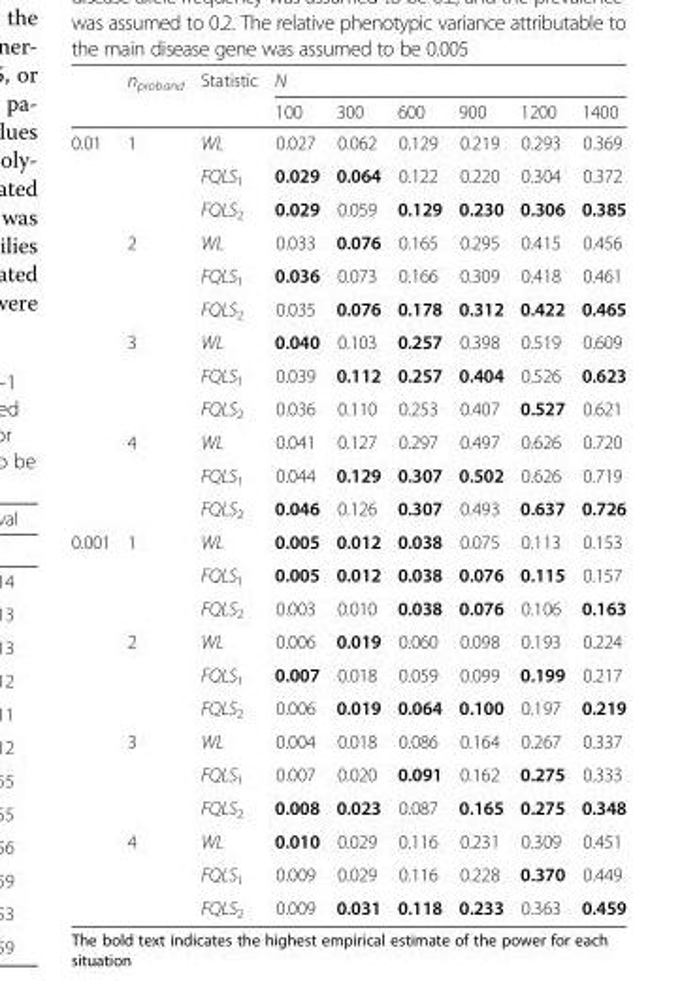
<table><thead><tr><td rowspan="2"></td><td rowspan="2">n<sub>proband</sub></td><td rowspan="2">Statistic</td><td colspan="6">N</td></tr><tr><td>100</td><td>300</td><td>600</td><td>900</td><td>1200</td><td>1400</td></tr></thead><tbody><tr><td rowspan="12">0.01</td><td rowspan="3">1</td><td>WL</td><td>0.027</td><td>0.062</td><td>0.129</td><td>0.219</td><td>0.293</td><td>0.369</td></tr><tr><td>FQLS<sub>1</sub></td><td>0.029</td><td>0.064</td><td>0.122</td><td>0.220</td><td>0.304</td><td>0.372</td></tr><tr><td>FQLS<sub>2</sub></td><td>0.029</td><td>0.059</td><td>0.129</td><td>0.230</td><td>0.306</td><td>0.385</td></tr><tr><td rowspan="3">2</td><td>WL</td><td>0.033</td><td>0.076</td><td>0.165</td><td>0.295</td><td>0.415</td><td>0.456</td></tr><tr><td>FQLS<sub>1</sub></td><td>0.036</td><td>0.073</td><td>0.166</td><td>0.309</td><td>0.418</td><td>0.461</td></tr><tr><td>FQLS<sub>2</sub></td><td>0.035</td><td>0.076</td><td>0.178</td><td>0.312</td><td>0.422</td><td>0.465</td></tr><tr><td rowspan="3">3</td><td>WL</td><td>0.040</td><td>0.103</td><td>0.257</td><td>0.398</td><td>0.519</td><td>0.609</td></tr><tr><td>FQLS<sub>1</sub></td><td>0.039</td><td>0.112</td><td>0.257</td><td>0.404</td><td>0.526</td><td>0.623</td></tr><tr><td>FQLS<sub>2</sub></td><td>0.036</td><td>0.110</td><td>0.253</td><td>0.407</td><td>0.527</td><td>0.621</td></tr><tr><td rowspan="3">4</td><td>WL</td><td>0.041</td><td>0.127</td><td>0.297</td><td>0.497</td><td>0.626</td><td>0.720</td></tr><tr><td>FQLS<sub>1</sub></td><td>0.044</td><td>0.129</td><td>0.307</td><td>0.502</td><td>0.626</td><td>0.719</td></tr><tr><td>FQLS<sub>2</sub></td><td>0.046</td><td>0.126</td><td>0.307</td><td>0.493</td><td>0.637</td><td>0.726</td></tr><tr><td rowspan="12">0.001</td><td rowspan="3">1</td><td>WL</td><td>0.005</td><td>0.012</td><td>0.038</td><td>0.075</td><td>0.113</td><td>0.153</td></tr><tr><td>FQLS<sub>1</sub></td><td>0.005</td><td>0.012</td><td>0.038</td><td>0.076</td><td>0.115</td><td>0.157</td></tr><tr><td>FQLS<sub>2</sub></td><td>0.003</td><td>0.010</td><td>0.038</td><td>0.076</td><td>0.106</td><td>0.163</td></tr><tr><td rowspan="3">2</td><td>WL</td><td>0.006</td><td>0.019</td><td>0.060</td><td>0.098</td><td>0.193</td><td>0.224</td></tr><tr><td>FQLS<sub>1</sub></td><td>0.007</td><td>0.018</td><td>0.059</td><td>0.099</td><td>0.199</td><td>0.217</td></tr><tr><td>FQLS<sub>2</sub></td><td>0.006</td><td>0.019</td><td>0.064</td><td>0.100</td><td>0.197</td><td>0.219</td></tr><tr><td rowspan="3">3</td><td>WL</td><td>0.004</td><td>0.018</td><td>0.086</td><td>0.164</td><td>0.267</td><td>0.337</td></tr><tr><td>FQLS<sub>1</sub></td><td>0.007</td><td>0.020</td><td>0.091</td><td>0.162</td><td>0.275</td><td>0.333</td></tr><tr><td>FQLS<sub>2</sub></td><td>0.008</td><td>0.023</td><td>0.087</td><td>0.165</td><td>0.275</td><td>0.348</td></tr><tr><td rowspan="3">4</td><td>WL</td><td>0.010</td><td>0.029</td><td>0.116</td><td>0.231</td><td>0.309</td><td>0.451</td></tr><tr><td>FQLS<sub>1</sub></td><td>0.009</td><td>0.029</td><td>0.116</td><td>0.228</td><td>0.370</td><td>0.449</td></tr><tr><td>FQLS<sub>2</sub></td><td>0.009</td><td>0.031</td><td>0.118</td><td>0.233</td><td>0.363</td><td>0.459</td></tr></tbody></table>